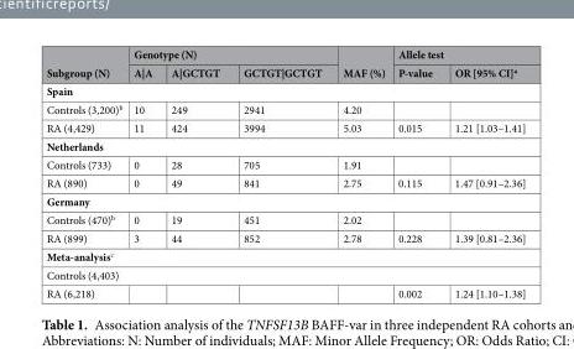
<table><thead><tr><td rowspan="2">Subgroup (N)</td><td colspan="3">Genotype (N)</td><td rowspan="2">MAF (%)</td><td colspan="2">Allele test</td></tr><tr><td>A|A</td><td>A|GCTGT</td><td>GCTGT|GCTGT</td><td>P-value</td><td>OR [95% CI]<sup>a</sup></td></tr></thead><tbody><tr><td colspan="7">Spain</td></tr><tr><td>Controls (3,200)<sup>b</sup></td><td>10</td><td>249</td><td>2941</td><td>4.20</td><td></td><td></td></tr><tr><td>RA (4,429)</td><td>11</td><td>424</td><td>3994</td><td>5.03</td><td>0.015</td><td>1.21 [1.03–1.41]</td></tr><tr><td colspan="7">Netherlands</td></tr><tr><td>Controls (733)</td><td>0</td><td>28</td><td>705</td><td>1.91</td><td></td><td></td></tr><tr><td>RA (890)</td><td>0</td><td>49</td><td>841</td><td>2.75</td><td>0.115</td><td>1.47 [0.91–2.36]</td></tr><tr><td colspan="7">Germany</td></tr><tr><td>Controls (470)<sup>b</sup></td><td>0</td><td>19</td><td>451</td><td>2.02</td><td></td><td></td></tr><tr><td>RA (899)</td><td>3</td><td>44</td><td>852</td><td>2.78</td><td>0.228</td><td>1.39 [0.81–2.36]</td></tr><tr><td colspan="7">Meta-analysis<sup>c</sup></td></tr><tr><td colspan="7">Controls (4,403)</td></tr><tr><td>RA (6,218)</td><td></td><td></td><td></td><td></td><td>0.002</td><td>1.24 [1.10–1.38]</td></tr></tbody></table>